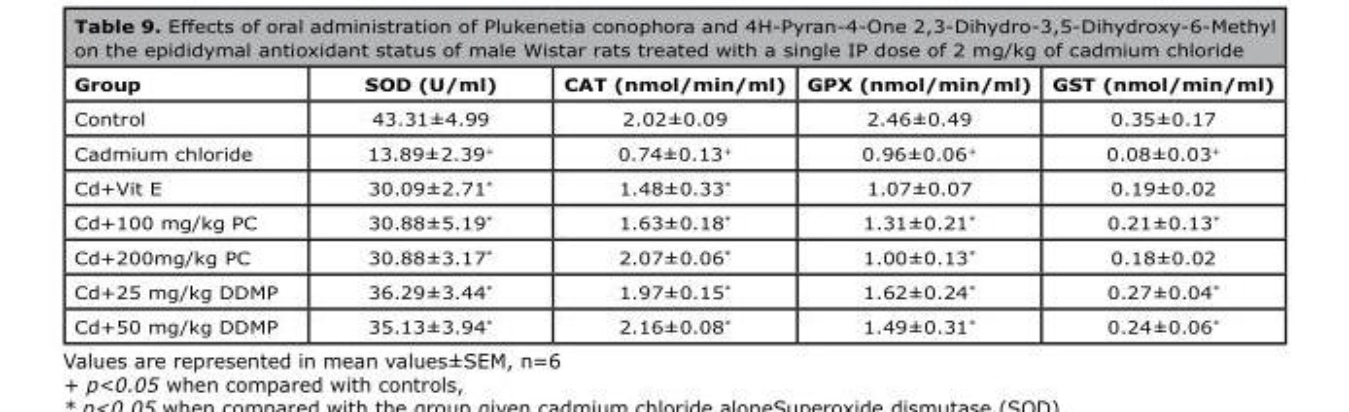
<table><thead><tr><td>Group</td><td>SOD (U/ml)</td><td>CAT (nmol/min/ml)</td><td>GPX (nmol/min/ml)</td><td>GST (nmol/min/ml)</td></tr></thead><tbody><tr><td>Control</td><td>43.31±4.99</td><td>2.02±0.09</td><td>2.46±0.49</td><td>0.35±0.17</td></tr><tr><td>Cadmium chloride</td><td>13.89±2.39<sup>+</sup></td><td>0.74±0.13<sup>+</sup></td><td>0.96±0.06<sup>+</sup></td><td>0.08±0.03<sup>+</sup></td></tr><tr><td>Cd+Vit E</td><td>30.09±2.71*</td><td>1.48±0.33*</td><td>1.07±0.07</td><td>0.19±0.02</td></tr><tr><td>Cd+100 mg/kg PC</td><td>30.88±5.19*</td><td>1.63±0.18*</td><td>1.31±0.21*</td><td>0.21±0.13*</td></tr><tr><td>Cd+200mg/kg PC</td><td>30.88±3.17*</td><td>2.07±0.06*</td><td>1.00±0.13*</td><td>0.18±0.02</td></tr><tr><td>Cd+25 mg/kg DDMP</td><td>36.29±3.44*</td><td>1.97±0.15*</td><td>1.62±0.24*</td><td>0.27±0.04*</td></tr><tr><td>Cd+50 mg/kg DDMP</td><td>35.13±3.94*</td><td>2.16±0.08*</td><td>1.49±0.31*</td><td>0.24±0.06*</td></tr></tbody></table>